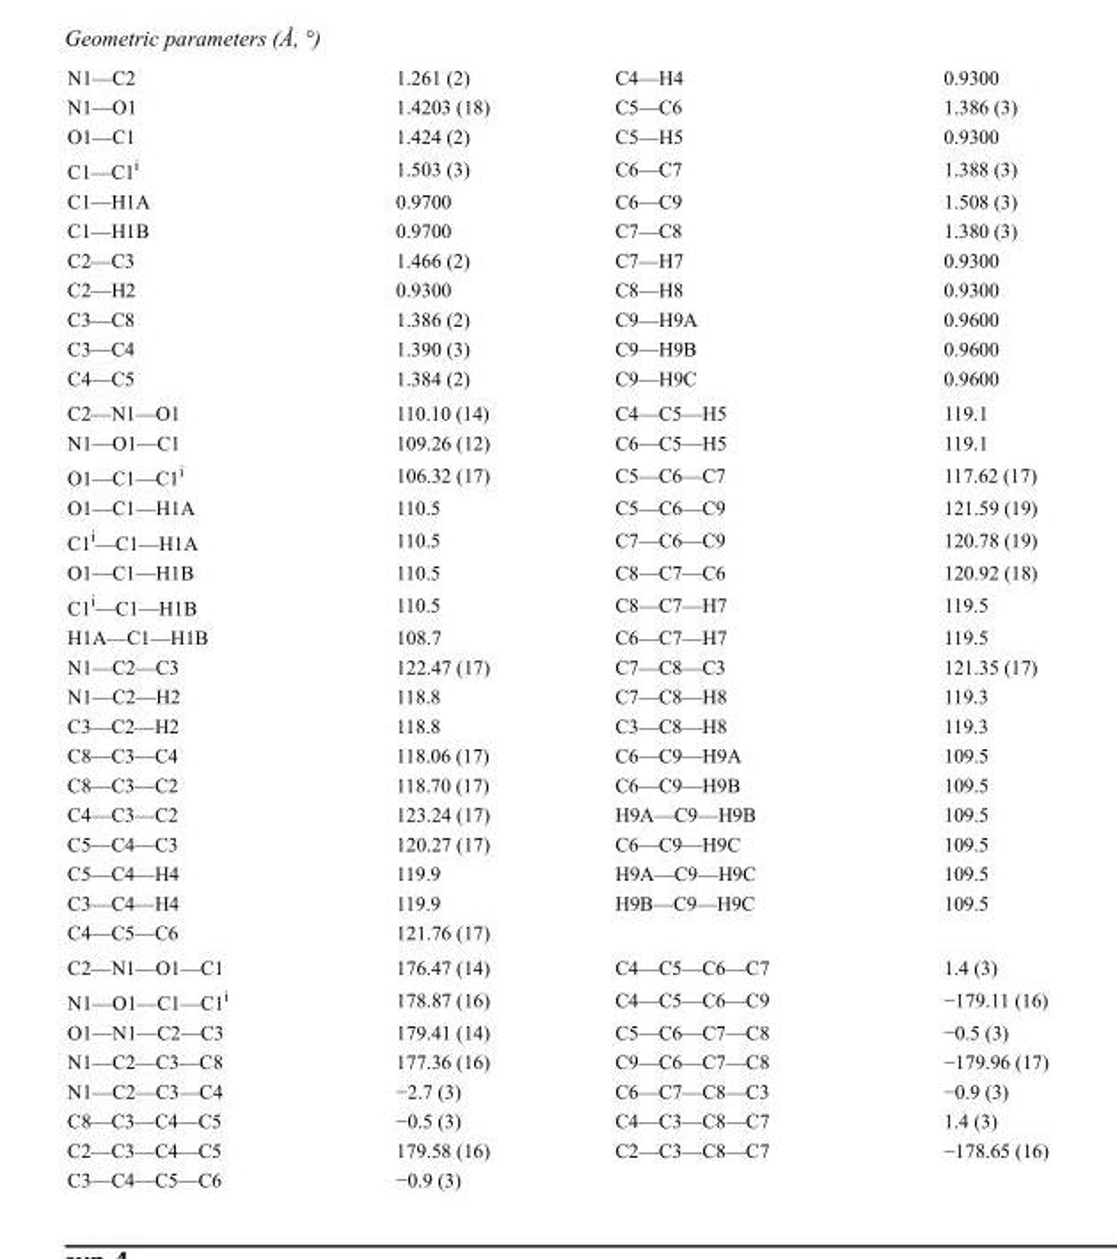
<table><tbody><tr><td>N1—C2</td><td>1.261 (2)</td><td>C4—H4</td><td>0.9300</td></tr><tr><td>N1—O1</td><td>1.4203 (18)</td><td>C5—C6</td><td>1.386 (3)</td></tr><tr><td>O1—C1</td><td>1.424 (2)</td><td>C5—H5</td><td>0.9300</td></tr><tr><td>C1—C1<sup>i</sup></td><td>1.503 (3)</td><td>C6—C7</td><td>1.388 (3)</td></tr><tr><td>C1—H1A</td><td>0.9700</td><td>C6—C9</td><td>1.508 (3)</td></tr><tr><td>C1—H1B</td><td>0.9700</td><td>C7—C8</td><td>1.380 (3)</td></tr><tr><td>C2—C3</td><td>1.466 (2)</td><td>C7—H7</td><td>0.9300</td></tr><tr><td>C2—H2</td><td>0.9300</td><td>C8—H8</td><td>0.9300</td></tr><tr><td>C3—C8</td><td>1.386 (2)</td><td>C9—H9A</td><td>0.9600</td></tr><tr><td>C3—C4</td><td>1.390 (3)</td><td>C9—H9B</td><td>0.9600</td></tr><tr><td>C4—C5</td><td>1.384 (2)</td><td>C9—H9C</td><td>0.9600</td></tr><tr><td>C2—N1—O1</td><td>110.10 (14)</td><td>C4—C5—H5</td><td>119.1</td></tr><tr><td>N1—O1—C1</td><td>109.26 (12)</td><td>C6—C5—H5</td><td>119.1</td></tr><tr><td>O1—C1—C1<sup>i</sup></td><td>106.32 (17)</td><td>C5—C6—C7</td><td>117.62 (17)</td></tr><tr><td>O1—C1—H1A</td><td>110.5</td><td>C5—C6—C9</td><td>121.59 (19)</td></tr><tr><td>C1<sup>i</sup>—C1—H1A</td><td>110.5</td><td>C7—C6—C9</td><td>120.78 (19)</td></tr><tr><td>O1—C1—H1B</td><td>110.5</td><td>C8—C7—C6</td><td>120.92 (18)</td></tr><tr><td>C1<sup>i</sup>—C1—H1B</td><td>110.5</td><td>C8—C7—H7</td><td>119.5</td></tr><tr><td>H1A—C1—H1B</td><td>108.7</td><td>C6—C7—H7</td><td>119.5</td></tr><tr><td>N1—C2—C3</td><td>122.47 (17)</td><td>C7—C8—C3</td><td>121.35 (17)</td></tr><tr><td>N1—C2—H2</td><td>118.8</td><td>C7—C8—H8</td><td>119.3</td></tr><tr><td>C3—C2—H2</td><td>118.8</td><td>C3—C8—H8</td><td>119.3</td></tr><tr><td>C8—C3—C4</td><td>118.06 (17)</td><td>C6—C9—H9A</td><td>109.5</td></tr><tr><td>C8—C3—C2</td><td>118.70 (17)</td><td>C6—C9—H9B</td><td>109.5</td></tr><tr><td>C4—C3—C2</td><td>123.24 (17)</td><td>H9A—C9—H9B</td><td>109.5</td></tr><tr><td>C5—C4—C3</td><td>120.27 (17)</td><td>C6—C9—H9C</td><td>109.5</td></tr><tr><td>C5—C4—H4</td><td>119.9</td><td>H9A—C9—H9C</td><td>109.5</td></tr><tr><td>C3—C4—H4</td><td>119.9</td><td>H9B—C9—H9C</td><td>109.5</td></tr><tr><td>C4—C5—C6</td><td>121.76 (17)</td><td></td><td></td></tr><tr><td>C2—N1—O1—C1</td><td>176.47 (14)</td><td>C4—C5—C6—C7</td><td>1.4 (3)</td></tr><tr><td>N1—O1—C1—C1<sup>i</sup></td><td>178.87 (16)</td><td>C4—C5—C6—C9</td><td>−179.11 (16)</td></tr><tr><td>O1—N1—C2—C3</td><td>179.41 (14)</td><td>C5—C6—C7—C8</td><td>−0.5 (3)</td></tr><tr><td>N1—C2—C3—C8</td><td>177.36 (16)</td><td>C9—C6—C7—C8</td><td>−179.96 (17)</td></tr><tr><td>N1—C2—C3—C4</td><td>−2.7 (3)</td><td>C6—C7—C8—C3</td><td>−0.9 (3)</td></tr><tr><td>C8—C3—C4—C5</td><td>−0.5 (3)</td><td>C4—C3—C8—C7</td><td>1.4 (3)</td></tr><tr><td>C2—C3—C4—C5</td><td>179.58 (16)</td><td>C2—C3—C8—C7</td><td>−178.65 (16)</td></tr><tr><td>C3—C4—C5—C6</td><td>−0.9 (3)</td><td></td><td></td></tr></tbody></table>